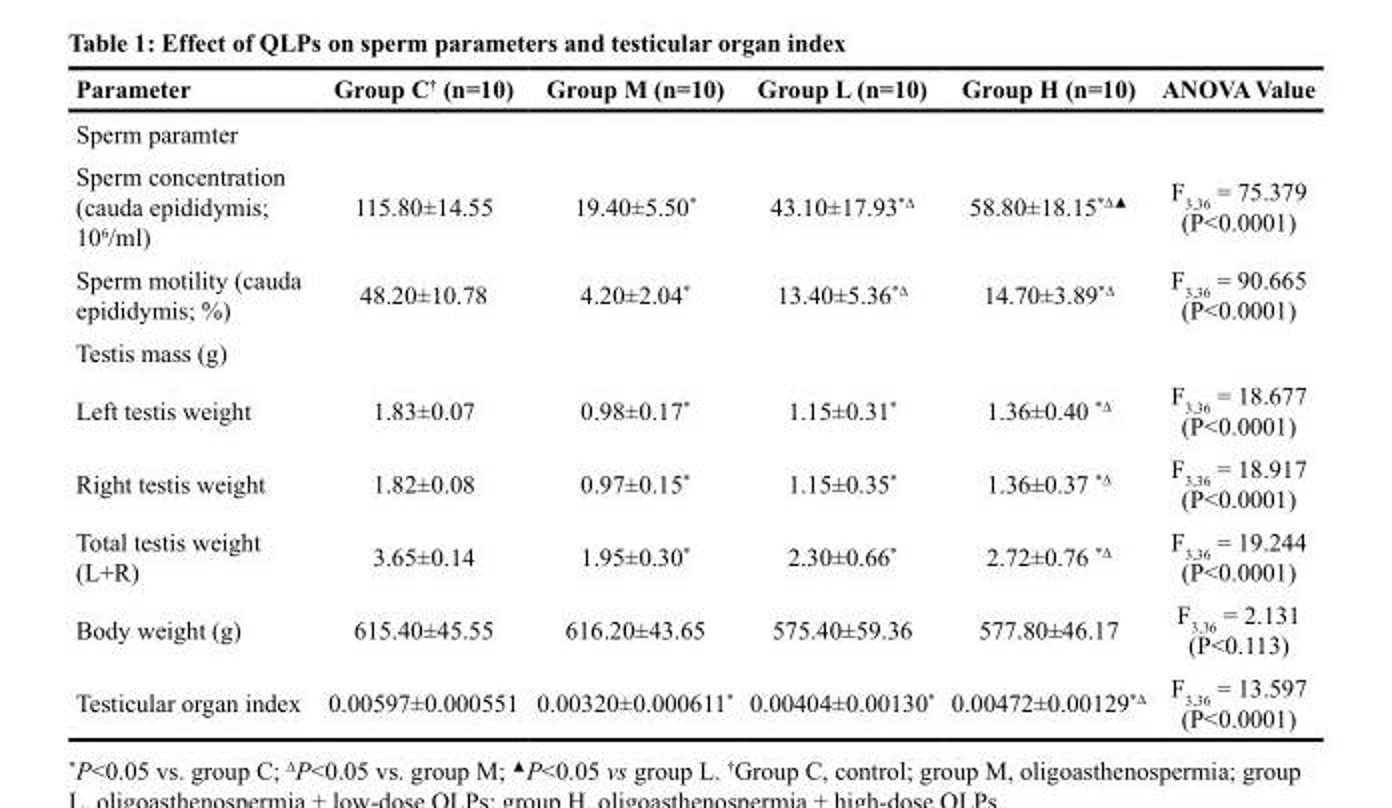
<table><thead><tr><td>Parameter</td><td>Group C<sup>†</sup> (n=10)</td><td>Group M (n=10)</td><td>Group L (n=10)</td><td>Group H (n=10)</td><td>ANOVA Value</td></tr></thead><tbody><tr><td colspan="6">Sperm paramter</td></tr><tr><td>Sperm concentration (cauda epididymis; 10<sup>6</sup>/ml)</td><td>115.80±14.55</td><td>19.40±5.50*</td><td>43.10±17.93<sup>*∆</sup></td><td>58.80±18.15<sup>*∆▲</sup></td><td>F<sub>3,36</sub> = 75.379 (P&lt;0.0001)</td></tr><tr><td>Sperm motility (cauda epididymis; %)</td><td>48.20±10.78</td><td>4.20±2.04*</td><td>13.40±5.36<sup>*∆</sup></td><td>14.70±3.89<sup>*∆</sup></td><td>F<sub>3,36</sub> = 90.665 (P&lt;0.0001)</td></tr><tr><td colspan="6">Testis mass (g)</td></tr><tr><td>Left testis weight</td><td>1.83±0.07</td><td>0.98±0.17*</td><td>1.15±0.31*</td><td>1.36±0.40 <sup>*∆</sup></td><td>F<sub>3,36</sub> = 18.677 (P&lt;0.0001)</td></tr><tr><td>Right testis weight</td><td>1.82±0.08</td><td>0.97±0.15*</td><td>1.15±0.35*</td><td>1.36±0.37 <sup>*∆</sup></td><td>F<sub>3,36</sub> = 18.917 (P&lt;0.0001)</td></tr><tr><td>Total testis weight (L+R)</td><td>3.65±0.14</td><td>1.95±0.30*</td><td>2.30±0.66*</td><td>2.72±0.76 <sup>*∆</sup></td><td>F<sub>3,36</sub> = 19.244 (P&lt;0.0001)</td></tr><tr><td>Body weight (g)</td><td>615.40±45.55</td><td>616.20±43.65</td><td>575.40±59.36</td><td>577.80±46.17</td><td>F<sub>3,36</sub> = 2.131 (P&lt;0.113)</td></tr><tr><td>Testicular organ index</td><td>0.00597±0.000551</td><td>0.00320±0.000611*</td><td>0.00404±0.00130*</td><td>0.00472±0.00129<sup>*∆</sup></td><td>F<sub>3,36</sub> = 13.597 (P&lt;0.0001)</td></tr></tbody></table>